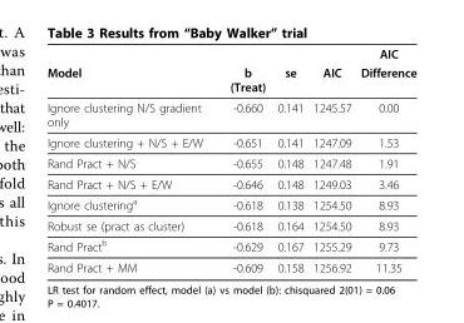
<table><thead><tr><td rowspan="2">Model</td><td rowspan="2">b (Treat)</td><td rowspan="2">se</td><td rowspan="2">AIC</td><td rowspan="2">AIC Difference</td></tr><tr></tr></thead><tbody><tr><td>Ignore clustering N/S gradient only</td><td>-0.660</td><td>0.141</td><td>1245.57</td><td>0.00</td></tr><tr><td>Ignore clustering + N/S + E/W</td><td>-0.651</td><td>0.141</td><td>1247.09</td><td>1.53</td></tr><tr><td>Rand Pract + N/S</td><td>-0.655</td><td>0.148</td><td>1247.48</td><td>1.91</td></tr><tr><td>Rand Pract + N/S + E/W</td><td>-0.646</td><td>0.148</td><td>1249.03</td><td>3.46</td></tr><tr><td>Ignore clustering<sup>a</sup></td><td>-0.618</td><td>0.138</td><td>1254.50</td><td>8.93</td></tr><tr><td>Robust se (pract as cluster)</td><td>-0.618</td><td>0.164</td><td>1254.50</td><td>8.93</td></tr><tr><td>Rand Pract<sup>b</sup></td><td>-0.629</td><td>0.167</td><td>1255.29</td><td>9.73</td></tr><tr><td>Rand Pract + MM</td><td>-0.609</td><td>0.158</td><td>1256.92</td><td>11.35</td></tr></tbody></table>